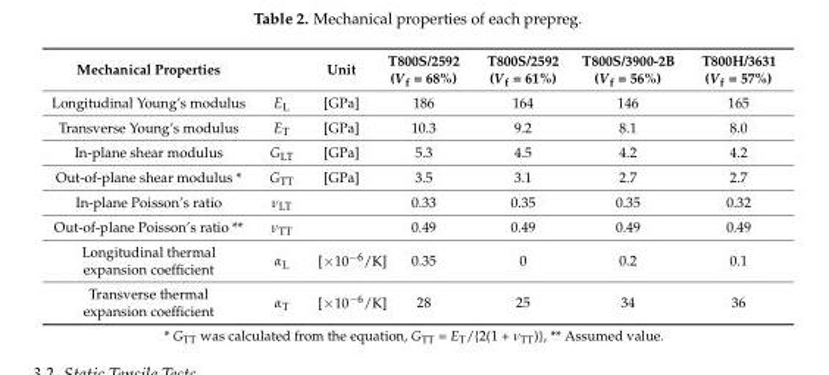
<table><thead><tr><td>Mechanical Properties</td><td></td><td>Unit</td><td>T800S/2592 (V<sub>f</sub> = 68%)</td><td>T800S/2592 (V<sub>f</sub> = 61%)</td><td>T800S/3900-2B (V<sub>f</sub> = 56%)</td><td>T800H/3631 (V<sub>f</sub> = 57%)</td></tr></thead><tbody><tr><td>Longitudinal Young’s modulus</td><td>E<sub>L</sub></td><td>[GPa]</td><td>186</td><td>164</td><td>146</td><td>165</td></tr><tr><td>Transverse Young’s modulus</td><td>E<sub>T</sub></td><td>[GPa]</td><td>10.3</td><td>9.2</td><td>8.1</td><td>8.0</td></tr><tr><td>In-plane shear modulus</td><td>G<sub>LT</sub></td><td>[GPa]</td><td>5.3</td><td>4.5</td><td>4.2</td><td>4.2</td></tr><tr><td>Out-of-plane shear modulus *</td><td>G<sub>TT</sub></td><td>[GPa]</td><td>3.5</td><td>3.1</td><td>2.7</td><td>2.7</td></tr><tr><td>In-plane Poisson’s ratio</td><td>ν<sub>LT</sub></td><td></td><td>0.33</td><td>0.35</td><td>0.35</td><td>0.32</td></tr><tr><td>Out-of-plane Poisson’s ratio **</td><td>ν<sub>TT</sub></td><td></td><td>0.49</td><td>0.49</td><td>0.49</td><td>0.49</td></tr><tr><td>Longitudinal thermal expansion coefficient</td><td>α<sub>L</sub></td><td>[×10<sup>−6</sup>/K]</td><td>0.35</td><td>0</td><td>0.2</td><td>0.1</td></tr><tr><td>Transverse thermal expansion coefficient</td><td>α<sub>T</sub></td><td>[×10<sup>−6</sup>/K]</td><td>28</td><td>25</td><td>34</td><td>36</td></tr></tbody></table>